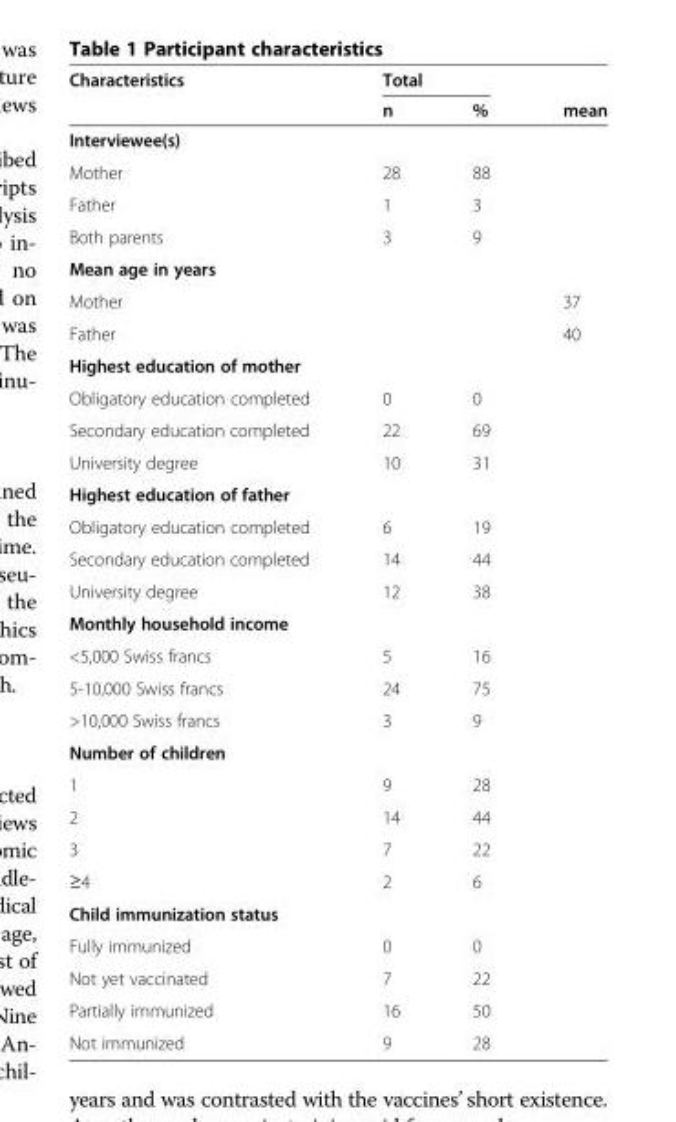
<table><thead><tr><td rowspan="2">Characteristics</td><td colspan="2">Total</td><td rowspan="2">mean</td></tr><tr><td>n</td><td>%</td></tr></thead><tbody><tr><td colspan="4">Interviewee(s)</td></tr><tr><td>Mother</td><td>28</td><td>88</td><td></td></tr><tr><td>Father</td><td>1</td><td>3</td><td></td></tr><tr><td>Both parents</td><td>3</td><td>9</td><td></td></tr><tr><td colspan="4">Mean age in years</td></tr><tr><td>Mother</td><td></td><td></td><td>37</td></tr><tr><td>Father</td><td></td><td></td><td>40</td></tr><tr><td colspan="4">Highest education of mother</td></tr><tr><td>Obligatory education completed</td><td>0</td><td>0</td><td></td></tr><tr><td>Secondary education completed</td><td>22</td><td>69</td><td></td></tr><tr><td>University degree</td><td>10</td><td>31</td><td></td></tr><tr><td colspan="4">Highest education of father</td></tr><tr><td>Obligatory education completed</td><td>6</td><td>19</td><td></td></tr><tr><td>Secondary education completed</td><td>14</td><td>44</td><td></td></tr><tr><td>University degree</td><td>12</td><td>38</td><td></td></tr><tr><td colspan="4">Monthly household income</td></tr><tr><td>&lt;5,000 Swiss francs</td><td>5</td><td>16</td><td></td></tr><tr><td>5-10,000 Swiss francs</td><td>24</td><td>75</td><td></td></tr><tr><td>&gt;10,000 Swiss francs</td><td>3</td><td>9</td><td></td></tr><tr><td colspan="4">Number of children</td></tr><tr><td>1</td><td>9</td><td>28</td><td></td></tr><tr><td>2</td><td>14</td><td>44</td><td></td></tr><tr><td>3</td><td>7</td><td>22</td><td></td></tr><tr><td>≥4</td><td>2</td><td>6</td><td></td></tr><tr><td colspan="4">Child immunization status</td></tr><tr><td>Fully immunized</td><td>0</td><td>0</td><td></td></tr><tr><td>Not yet vaccinated</td><td>7</td><td>22</td><td></td></tr><tr><td>Partially immunized</td><td>16</td><td>50</td><td></td></tr><tr><td>Not immunized</td><td>9</td><td>28</td><td></td></tr></tbody></table>